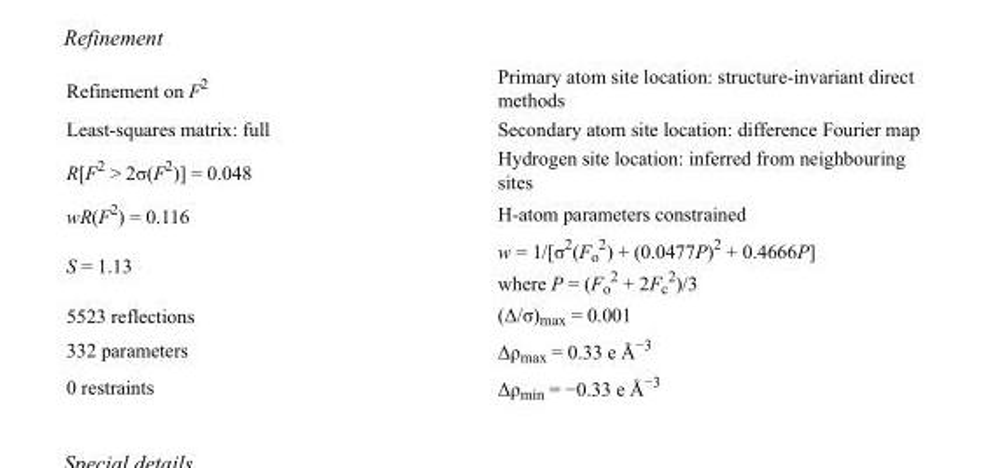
<table><tbody><tr><td>Refinement on F<sup>2</sup></td><td>Primary atom site location: structure-invariant direct methods</td></tr><tr><td>Least-squares matrix: full</td><td>Secondary atom site location: difference Fourier map</td></tr><tr><td>R[F<sup>2</sup> &gt; 2σ(F<sup>2</sup>)] = 0.048</td><td>Hydrogen site location: inferred from neighbouring sites</td></tr><tr><td>wR(F<sup>2</sup>) = 0.116</td><td>H-atom parameters constrained</td></tr><tr><td>S = 1.13</td><td>w = 1/[σ<sup>2</sup>(F<sub>o</sub> <sup>2</sup>) + (0.0477P)<sup>2</sup> + 0.4666P] where P = (F<sub>o</sub> <sup>2</sup> + 2F<sub>c</sub> <sup>2</sup>)/3</td></tr><tr><td>5523 reflections</td><td>(Δ/σ)<sub>max</sub> = 0.001</td></tr><tr><td>332 parameters</td><td>Δρ<sub>max</sub> = 0.33 e Å<sup>−3</sup></td></tr><tr><td>0 restraints</td><td>Δρ<sub>min</sub> = −0.33 e Å<sup>−3</sup></td></tr></tbody></table>